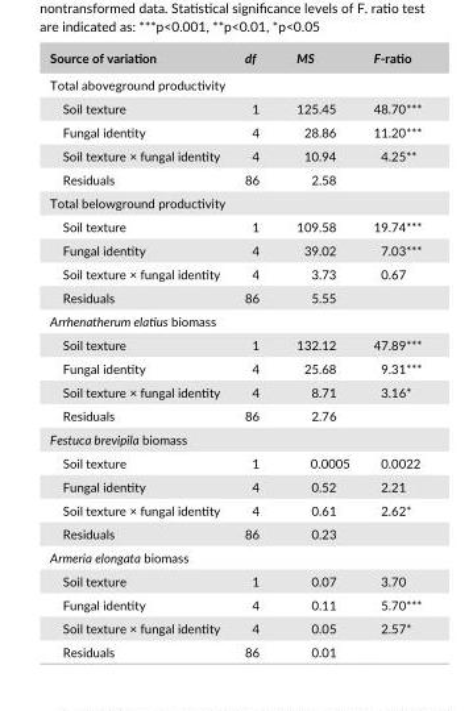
<table><thead><tr><td>Source of variation</td><td>df</td><td>MS</td><td>F- ratio</td></tr></thead><tbody><tr><td colspan="4">Total aboveground productivity</td></tr><tr><td>Soil texture</td><td>1</td><td>125.45</td><td>48.70***</td></tr><tr><td>Fungal identity</td><td>4</td><td>28.86</td><td>11.20***</td></tr><tr><td>Soil texture × fungal identity</td><td>4</td><td>10.94</td><td>4.25**</td></tr><tr><td>Residuals</td><td>86</td><td>2.58</td><td></td></tr><tr><td colspan="4">Total belowground productivity</td></tr><tr><td>Soil texture</td><td>1</td><td>109.58</td><td>19.74***</td></tr><tr><td>Fungal identity</td><td>4</td><td>39.02</td><td>7.03***</td></tr><tr><td>Soil texture × fungal identity</td><td>4</td><td>3.73</td><td>0.67</td></tr><tr><td>Residuals</td><td>86</td><td>5.55</td><td></td></tr><tr><td colspan="4">Arrhenatherum elatius biomass</td></tr><tr><td>Soil texture</td><td>1</td><td>132.12</td><td>47.89***</td></tr><tr><td>Fungal identity</td><td>4</td><td>25.68</td><td>9.31***</td></tr><tr><td>Soil texture × fungal identity</td><td>4</td><td>8.71</td><td>3.16*</td></tr><tr><td>Residuals</td><td>86</td><td>2.76</td><td></td></tr><tr><td colspan="4">Festuca brevipila biomass</td></tr><tr><td>Soil texture</td><td>1</td><td>0.0005</td><td>0.0022</td></tr><tr><td>Fungal identity</td><td>4</td><td>0.52</td><td>2.21</td></tr><tr><td>Soil texture × fungal identity</td><td>4</td><td>0.61</td><td>2.62*</td></tr><tr><td>Residuals</td><td>86</td><td>0.23</td><td></td></tr><tr><td colspan="4">Armeria elongata biomass</td></tr><tr><td>Soil texture</td><td>1</td><td>0.07</td><td>3.70</td></tr><tr><td>Fungal identity</td><td>4</td><td>0.11</td><td>5.70***</td></tr><tr><td>Soil texture × fungal identity</td><td>4</td><td>0.05</td><td>2.57*</td></tr><tr><td>Residuals</td><td>86</td><td>0.01</td><td></td></tr></tbody></table>